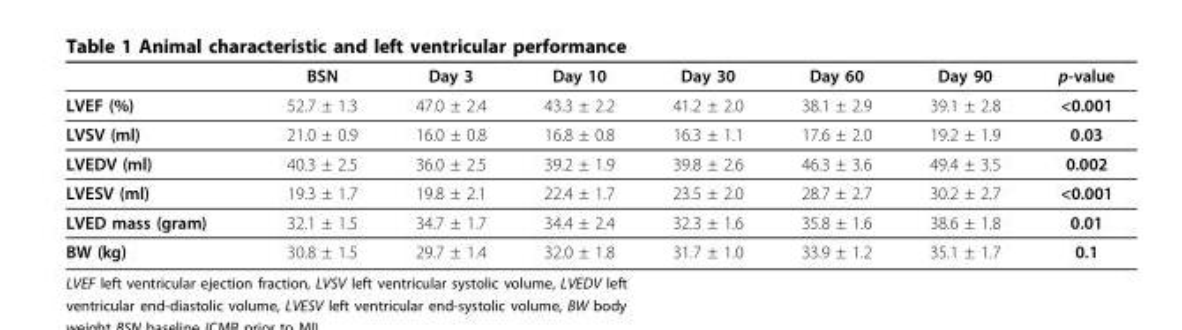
<table><thead><tr><td></td><td>BSN</td><td>Day 3</td><td>Day 10</td><td>Day 30</td><td>Day 60</td><td>Day 90</td><td>p-value</td></tr></thead><tbody><tr><td>LVEF (%)</td><td>52.7 ± 1.3</td><td>47.0 ± 2.4</td><td>43.3 ± 2.2</td><td>41.2 ± 2.0</td><td>38.1 ± 2.9</td><td>39.1 ± 2.8</td><td>&lt;0.001</td></tr><tr><td>LVSV (ml)</td><td>21.0 ± 0.9</td><td>16.0 ± 0.8</td><td>16.8 ± 0.8</td><td>16.3 ± 1.1</td><td>17.6 ± 2.0</td><td>19.2 ± 1.9</td><td>0.03</td></tr><tr><td>LVEDV (ml)</td><td>40.3 ± 2.5</td><td>36.0 ± 2.5</td><td>39.2 ± 1.9</td><td>39.8 ± 2.6</td><td>46.3 ± 3.6</td><td>49.4 ± 3.5</td><td>0.002</td></tr><tr><td>LVESV (ml)</td><td>19.3 ± 1.7</td><td>19.8 ± 2.1</td><td>22.4 ± 1.7</td><td>23.5 ± 2.0</td><td>28.7 ± 2.7</td><td>30.2 ± 2.7</td><td>&lt;0.001</td></tr><tr><td>LVED mass (gram)</td><td>32.1 ± 1.5</td><td>34.7 ± 1.7</td><td>34.4 ± 2.4</td><td>32.3 ± 1.6</td><td>35.8 ± 1.6</td><td>38.6 ± 1.8</td><td>0.01</td></tr><tr><td>BW (kg)</td><td>30.8 ± 1.5</td><td>29.7 ± 1.4</td><td>32.0 ± 1.8</td><td>31.7 ± 1.0</td><td>33.9 ± 1.2</td><td>35.1 ± 1.7</td><td>0.1</td></tr></tbody></table>